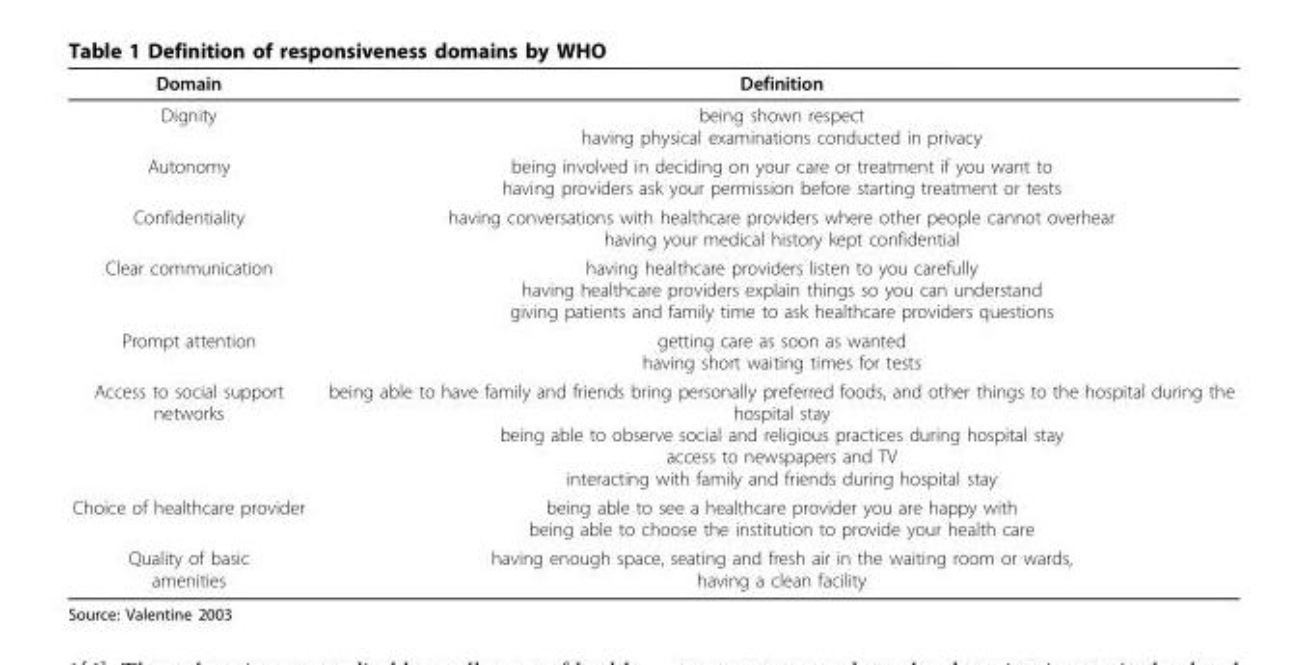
<table><thead><tr><td>Domain</td><td>Definition</td></tr></thead><tbody><tr><td>Dignity</td><td>being shown respect having physical examinations conducted in privacy</td></tr><tr><td>Autonomy</td><td>being involved in deciding on your care or treatment if you want to having providers ask your permission before starting treatment or tests</td></tr><tr><td>Confidentiality</td><td>having conversations with healthcare providers where other people cannot overhear having your medical history kept confidential</td></tr><tr><td>Clear communication</td><td>having healthcare providers listen to you carefully having healthcare providers explain things so you can understand giving patients and family time to ask healthcare providers questions</td></tr><tr><td>Prompt attention</td><td>getting care as soon as wanted having short waiting times for tests</td></tr><tr><td>Access to social support networks</td><td>being able to have family and friends bring personally preferred foods, and other things to the hospital during the hospital stay being able to observe social and religious practices during hospital stay access to newspapers and TV interacting with family and friends during hospital stay</td></tr><tr><td>Choice of healthcare provider</td><td>being able to see a healthcare provider you are happy with being able to choose the institution to provide your health care</td></tr><tr><td>Quality of basic amenities</td><td>having enough space, seating and fresh air in the waiting room or wards, having a clean facility</td></tr></tbody></table>